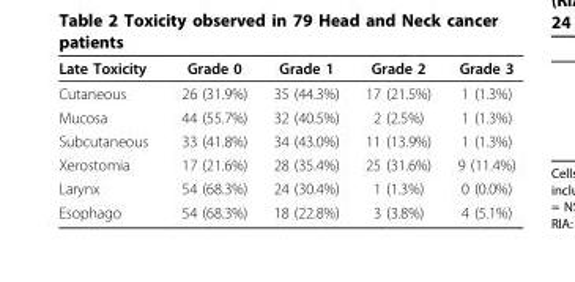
<table><thead><tr><td>Late Toxicity</td><td>Grade 0</td><td>Grade 1</td><td>Grade 2</td><td>Grade 3</td></tr></thead><tbody><tr><td>Cutaneous</td><td>26 (31.9%)</td><td>35 (44.3%)</td><td>17 (21.5%)</td><td>1 (1.3%)</td></tr><tr><td>Mucosa</td><td>44 (55.7%)</td><td>32 (40.5%)</td><td>2 (2.5%)</td><td>1 (1.3%)</td></tr><tr><td>Subcutaneous</td><td>33 (41.8%)</td><td>34 (43.0%)</td><td>11 (13.9%)</td><td>1 (1.3%)</td></tr><tr><td>Xerostomia</td><td>17 (21.6%)</td><td>28 (35.4%)</td><td>25 (31.6%)</td><td>9 (11.4%)</td></tr><tr><td>Larynx</td><td>54 (68.3%)</td><td>24 (30.4%)</td><td>1 (1.3%)</td><td>0 (0.0%)</td></tr><tr><td>Esophago</td><td>54 (68.3%)</td><td>18 (22.8%)</td><td>3 (3.8%)</td><td>4 (5.1%)</td></tr></tbody></table>